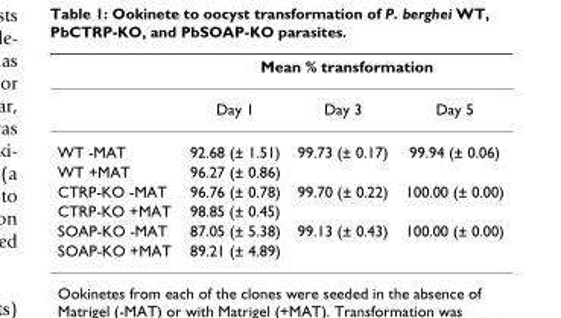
<table><thead><tr><td rowspan="2"></td><td colspan="3">Mean % transformation</td></tr><tr><td>Day 1</td><td>Day 3</td><td>Day 5</td></tr></thead><tbody><tr><td>WT -MAT</td><td>92.68 (± 1.51)</td><td>99.73 (± 0.17)</td><td>99.94 (± 0.06)</td></tr><tr><td>WT +MAT</td><td>96.27 (± 0.86)</td><td></td><td></td></tr><tr><td>CTRP-KO -MAT</td><td>96.76 (± 0.78)</td><td>99.70 (± 0.22)</td><td>100.00 (± 0.00)</td></tr><tr><td>CTRP-KO +MAT</td><td>98.85 (± 0.45)</td><td></td><td></td></tr><tr><td>SOAP-KO -MAT</td><td>87.05 (± 5.38)</td><td>99.13 (± 0.43)</td><td>100.00 (± 0.00)</td></tr><tr><td>SOAP-KO +MAT</td><td>89.21 (± 4.89)</td><td></td><td></td></tr></tbody></table>